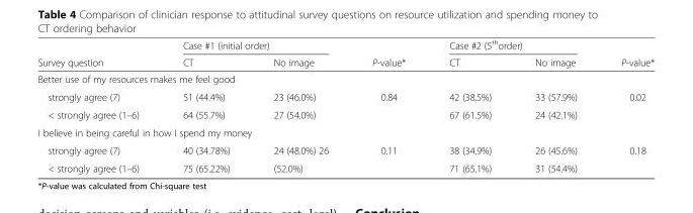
<table><thead><tr><td rowspan="2">Survey question</td><td colspan="2">Case #1 (initial order)</td><td rowspan="2">P-value*</td><td colspan="2">Case #2 (5<sup>th</sup>order)</td><td rowspan="2">P-value*</td></tr><tr><td>CT</td><td>No image</td><td>CT</td><td>No image</td></tr></thead><tbody><tr><td colspan="7">Better use of my resources makes me feel good</td></tr><tr><td>strongly agree (7)</td><td>51 (44.4%)</td><td>23 (46.0%)</td><td>0.84</td><td>42 (38.5%)</td><td>33 (57.9%)</td><td rowspan="2">0.02</td></tr><tr><td>&lt; strongly agree (1–6)</td><td>64 (55.7%)</td><td>27 (54.0%)</td><td></td><td>67 (61.5%)</td><td>24 (42.1%)</td></tr><tr><td colspan="7">I believe in being careful in how I spend my money</td></tr><tr><td>strongly agree (7)</td><td>40 (34.78%)</td><td>24 (48.0%) 26</td><td>0.11</td><td>38 (34.9%)</td><td>26 (45.6%)</td><td rowspan="2">0.18</td></tr><tr><td>&lt; strongly agree (1–6)</td><td>75 (65.22%)</td><td>(52.0%)</td><td></td><td>71 (65.1%)</td><td>31 (54.4%)</td></tr></tbody></table>